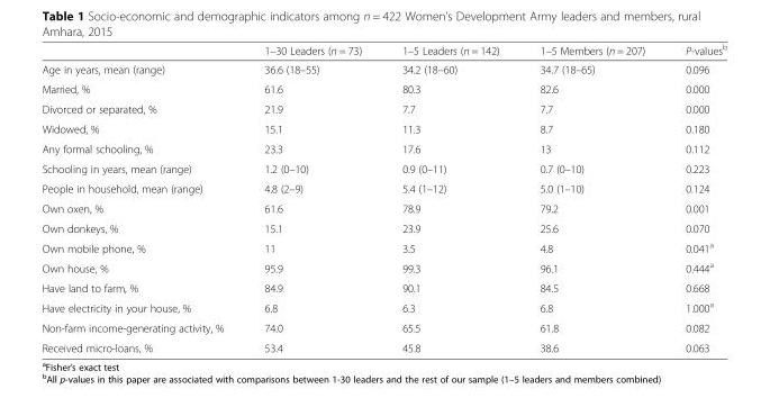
<table><thead><tr><td></td><td>1–30 Leaders (n = 73)</td><td>1–5 Leaders (n = 142)</td><td>1–5 Members (n = 207)</td><td>P-values<sup>b</sup></td></tr></thead><tbody><tr><td>Age in years, mean (range)</td><td>36.6 (18–55)</td><td>34.2 (18–60)</td><td>34.7 (18–65)</td><td>0.096</td></tr><tr><td>Married, %</td><td>61.6</td><td>80.3</td><td>82.6</td><td>0.000</td></tr><tr><td>Divorced or separated, %</td><td>21.9</td><td>7.7</td><td>7.7</td><td>0.000</td></tr><tr><td>Widowed, %</td><td>15.1</td><td>11.3</td><td>8.7</td><td>0.180</td></tr><tr><td>Any formal schooling, %</td><td>23.3</td><td>17.6</td><td>13</td><td>0.112</td></tr><tr><td>Schooling in years, mean (range)</td><td>1.2 (0–10)</td><td>0.9 (0–11)</td><td>0.7 (0–10)</td><td>0.223</td></tr><tr><td>People in household, mean (range)</td><td>4.8 (2–9)</td><td>5.4 (1–12)</td><td>5.0 (1–10)</td><td>0.124</td></tr><tr><td>Own oxen, %</td><td>61.6</td><td>78.9</td><td>79.2</td><td>0.001</td></tr><tr><td>Own donkeys, %</td><td>15.1</td><td>23.9</td><td>25.6</td><td>0.070</td></tr><tr><td>Own mobile phone, %</td><td>11</td><td>3.5</td><td>4.8</td><td>0.041<sup>a</sup></td></tr><tr><td>Own house, %</td><td>95.9</td><td>99.3</td><td>96.1</td><td>0.444<sup>a</sup></td></tr><tr><td>Have land to farm, %</td><td>84.9</td><td>90.1</td><td>84.5</td><td>0.668</td></tr><tr><td>Have electricity in your house, %</td><td>6.8</td><td>6.3</td><td>6.8</td><td>1.000<sup>a</sup></td></tr><tr><td>Non-farm income-generating activity, %</td><td>74.0</td><td>65.5</td><td>61.8</td><td>0.082</td></tr><tr><td>Received micro-loans, %</td><td>53.4</td><td>45.8</td><td>38.6</td><td>0.063</td></tr></tbody></table>